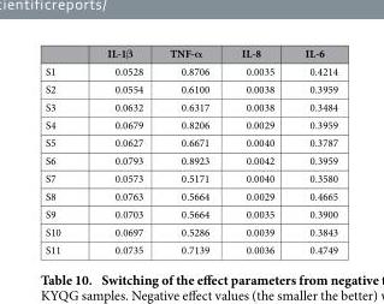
<table><thead><tr><td></td><td>IL-1β</td><td>TNF-α</td><td>IL-8</td><td>IL-6</td></tr></thead><tbody><tr><td>S1</td><td>0.0528</td><td>0.8706</td><td>0.0035</td><td>0.4214</td></tr><tr><td>S2</td><td>0.0554</td><td>0.6100</td><td>0.0038</td><td>0.3959</td></tr><tr><td>S3</td><td>0.0632</td><td>0.6317</td><td>0.0038</td><td>0.3484</td></tr><tr><td>S4</td><td>0.0679</td><td>0.8206</td><td>0.0029</td><td>0.3959</td></tr><tr><td>S5</td><td>0.0627</td><td>0.6671</td><td>0.0040</td><td>0.3787</td></tr><tr><td>S6</td><td>0.0793</td><td>0.8923</td><td>0.0042</td><td>0.3959</td></tr><tr><td>S7</td><td>0.0573</td><td>0.5171</td><td>0.0040</td><td>0.3580</td></tr><tr><td>S8</td><td>0.0763</td><td>0.5664</td><td>0.0029</td><td>0.4665</td></tr><tr><td>S9</td><td>0.0703</td><td>0.5664</td><td>0.0035</td><td>0.3900</td></tr><tr><td>S10</td><td>0.0697</td><td>0.5286</td><td>0.0039</td><td>0.3843</td></tr><tr><td>S11</td><td>0.0735</td><td>0.7139</td><td>0.0036</td><td>0.4749</td></tr></tbody></table>